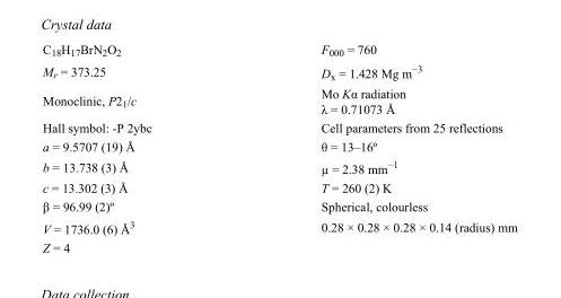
<table><tbody><tr><td>C<sub>18</sub>H<sub>17</sub>BrN<sub>2</sub>O<sub>2</sub></td><td>F<sub>000</sub> = 760</td></tr><tr><td>M<sub>r</sub> = 373.25</td><td>D<sub>x</sub> = 1.428 Mg m<sup>−3</sup></td></tr><tr><td>Monoclinic, P2<sub>1</sub>/c</td><td>Mo Kα radiation λ = 0.71073 Å</td></tr><tr><td>Hall symbol: -P 2ybc</td><td>Cell parameters from 25 reflections</td></tr><tr><td>a = 9.5707 (19) Å</td><td>θ = 13–16º</td></tr><tr><td>b = 13.738 (3) Å</td><td>µ = 2.38 mm<sup>−1</sup></td></tr><tr><td>c = 13.302 (3) Å</td><td>T = 260 (2) K</td></tr><tr><td>β = 96.99 (2)º</td><td>Spherical, colourless</td></tr><tr><td>V = 1736.0 (6) Å<sup>3</sup></td><td>0.28 × 0.28 × 0.28 × 0.14 (radius) mm</td></tr><tr><td>Z = 4</td><td></td></tr></tbody></table>